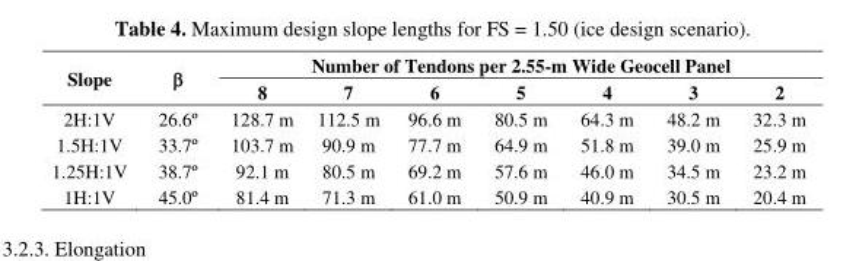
<table><thead><tr><td rowspan="2">Slope</td><td rowspan="2"></td><td colspan="7">Number of Tendons per 2.55-m Wide Geocell Panel</td></tr><tr><td>8</td><td>7</td><td>6</td><td>5</td><td>4</td><td>3</td><td>2</td></tr></thead><tbody><tr><td>2H:1V</td><td>26.6º</td><td>128.7 m</td><td>112.5 m</td><td>96.6 m</td><td>80.5 m</td><td>64.3 m</td><td>48.2 m</td><td>32.3 m</td></tr><tr><td>1.5H:1V</td><td>33.7º</td><td>103.7 m</td><td>90.9 m</td><td>77.7 m</td><td>64.9 m</td><td>51.8 m</td><td>39.0 m</td><td>25.9 m</td></tr><tr><td>1.25H:1V</td><td>38.7º</td><td>92.1 m</td><td>80.5 m</td><td>69.2 m</td><td>57.6 m</td><td>46.0 m</td><td>34.5 m</td><td>23.2 m</td></tr><tr><td>1H:1V</td><td>45.0º</td><td>81.4 m</td><td>71.3 m</td><td>61.0 m</td><td>50.9 m</td><td>40.9 m</td><td>30.5 m</td><td>20.4 m</td></tr></tbody></table>